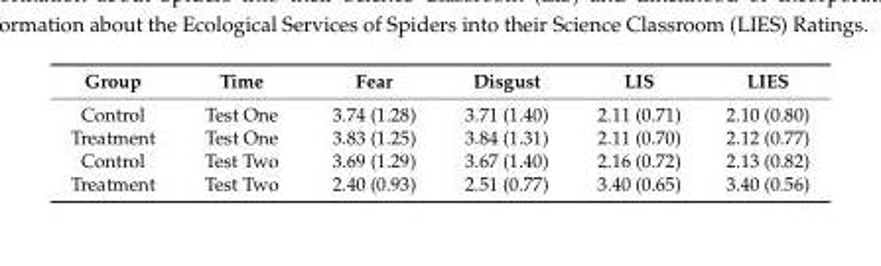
<table><thead><tr><td>Group</td><td>Time</td><td>Fear</td><td>Disgust</td><td>LIS</td><td>LIES</td></tr></thead><tbody><tr><td>Control</td><td>Test One</td><td>3.74 (1.28)</td><td>3.71 (1.40)</td><td>2.11 (0.71)</td><td>2.10 (0.80)</td></tr><tr><td>Treatment</td><td>Test One</td><td>3.83 (1.25)</td><td>3.84 (1.31)</td><td>2.11 (0.70)</td><td>2.12 (0.77)</td></tr><tr><td>Control</td><td>Test Two</td><td>3.69 (1.29)</td><td>3.67 (1.40)</td><td>2.16 (0.72)</td><td>2.13 (0.82)</td></tr><tr><td>Treatment</td><td>Test Two</td><td>2.40 (0.93)</td><td>2.51 (0.77)</td><td>3.40 (0.65)</td><td>3.40 (0.56)</td></tr></tbody></table>